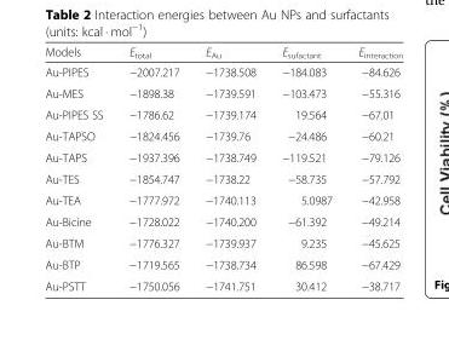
<table><thead><tr><td>Models</td><td>E<sub>total</sub></td><td>E<sub>Au</sub></td><td>E<sub>sufactant</sub></td><td>E<sub>interaction</sub></td></tr></thead><tbody><tr><td>Au-PIPES</td><td>−2007.217</td><td>−1738.508</td><td>−184.083</td><td>−84.626</td></tr><tr><td>Au-MES</td><td>−1898.38</td><td>−1739.591</td><td>−103.473</td><td>−55.316</td></tr><tr><td>Au-PIPES SS</td><td>−1786.62</td><td>−1739.174</td><td>19.564</td><td>−67.01</td></tr><tr><td>Au-TAPSO</td><td>−1824.456</td><td>−1739.76</td><td>−24.486</td><td>−60.21</td></tr><tr><td>Au-TAPS</td><td>−1937.396</td><td>−1738.749</td><td>−119.521</td><td>−79.126</td></tr><tr><td>Au-TES</td><td>−1854.747</td><td>−1738.22</td><td>−58.735</td><td>−57.792</td></tr><tr><td>Au-TEA</td><td>−1777.972</td><td>−1740.113</td><td>5.0987</td><td>−42.958</td></tr><tr><td>Au-Bicine</td><td>−1728.022</td><td>−1740.200</td><td>−61.392</td><td>−49.214</td></tr><tr><td>Au-BTM</td><td>−1776.327</td><td>−1739.937</td><td>9.235</td><td>−45.625</td></tr><tr><td>Au-BTP</td><td>−1719.565</td><td>−1738.734</td><td>86.598</td><td>−67.429</td></tr><tr><td>Au-PSTT</td><td>−1750.056</td><td>−1741.751</td><td>30.412</td><td>−38.717</td></tr></tbody></table>